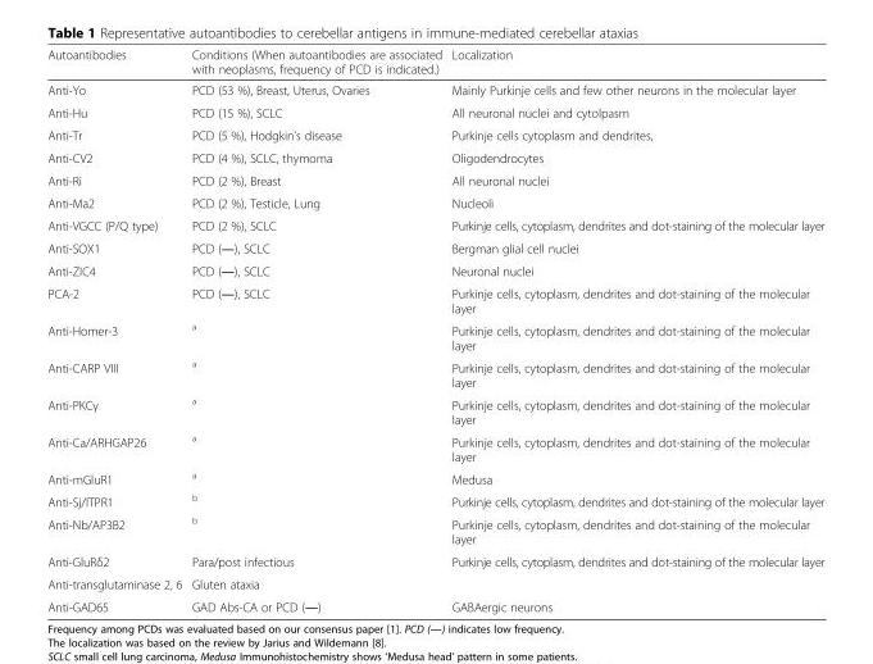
<table><thead><tr><td>Autoantibodies</td><td>Conditions (When autoantibodies are associated with neoplasms, frequency of PCD is indicated.)</td><td>Localization</td></tr></thead><tbody><tr><td>Anti-Yo</td><td>PCD (53 %), Breast, Uterus, Ovaries</td><td>Mainly Purkinje cells and few other neurons in the molecular layer</td></tr><tr><td>Anti-Hu</td><td>PCD (15 %), SCLC</td><td>All neuronal nuclei and cytolpasm</td></tr><tr><td>Anti-Tr</td><td>PCD (5 %), Hodgkin’s disease</td><td>Purkinje cells cytoplasm and dendrites,</td></tr><tr><td>Anti-CV2</td><td>PCD (4 %), SCLC, thymoma</td><td>Oligodendrocytes</td></tr><tr><td>Anti-Ri</td><td>PCD (2 %), Breast</td><td>All neuronal nuclei</td></tr><tr><td>Anti-Ma2</td><td>PCD (2 %), Testicle, Lung</td><td>Nucleoli</td></tr><tr><td>Anti-VGCC (P/Q type)</td><td>PCD (2 %), SCLC</td><td>Purkinje cells, cytoplasm, dendrites and dot-staining of the molecular layer</td></tr><tr><td>Anti-SOX1</td><td>PCD (―), SCLC</td><td>Bergman glial cell nuclei</td></tr><tr><td>Anti-ZIC4</td><td>PCD (―), SCLC</td><td>Neuronal nuclei</td></tr><tr><td>PCA-2</td><td>PCD (―), SCLC</td><td>Purkinje cells, cytoplasm, dendrites and dot-staining of the molecular layer</td></tr><tr><td>Anti-Homer-3</td><td><sup>a</sup></td><td>Purkinje cells, cytoplasm, dendrites and dot-staining of the molecular layer</td></tr><tr><td>Anti-CARP VIII</td><td><sup>a</sup></td><td>Purkinje cells, cytoplasm, dendrites and dot-staining of the molecular layer</td></tr><tr><td>Anti-PKCγ</td><td><sup>a</sup></td><td>Purkinje cells, cytoplasm, dendrites and dot-staining of the molecular layer</td></tr><tr><td>Anti-Ca/ARHGAP26</td><td><sup>a</sup></td><td>Purkinje cells, cytoplasm, dendrites and dot-staining of the molecular layer</td></tr><tr><td>Anti-mGluR1</td><td><sup>a</sup></td><td>Medusa</td></tr><tr><td>Anti-Sj/ITPR1</td><td><sup>b</sup></td><td>Purkinje cells, cytoplasm, dendrites and dot-staining of the molecular layer</td></tr><tr><td>Anti-Nb/AP3B2</td><td><sup>b</sup></td><td>Purkinje cells, cytoplasm, dendrites and dot-staining of the molecular layer</td></tr><tr><td>Anti-GluRδ2</td><td>Para/post infectious</td><td>Purkinje cells, cytoplasm, dendrites and dot-staining of the molecular layer</td></tr><tr><td>Anti-transglutaminase 2, 6</td><td>Gluten ataxia</td><td></td></tr><tr><td>Anti-GAD65</td><td>GAD Abs-CA or PCD (―)</td><td>GABAergic neurons</td></tr></tbody></table>